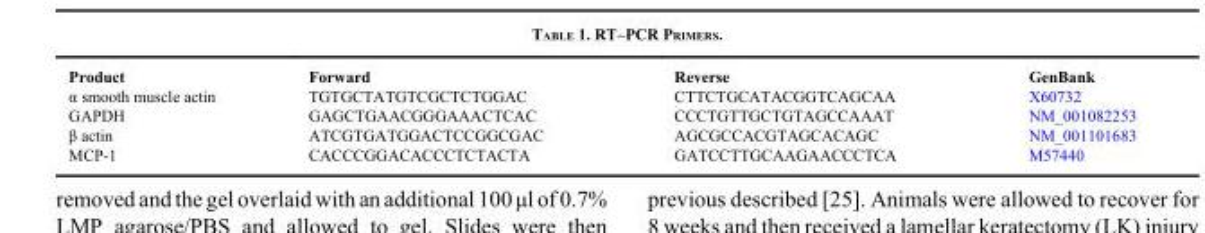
<table><thead><tr><td>Product</td><td>Forward</td><td>Reverse</td><td>GenBank</td></tr></thead><tbody><tr><td>α smooth muscle actin</td><td>TGTGCTATGTCGCTCTGGAC</td><td>CTTCTGCATACGGTCAGCAA</td><td>X60732</td></tr><tr><td>GAPDH</td><td>GAGCTGAACGGGAAACTCAC</td><td>CCCTGTTGCTGTAGCCAAAT</td><td>NM_001082253</td></tr><tr><td>β actin</td><td>ATCGTGATGGACTCCGGCGAC</td><td>AGCGCCACGTAGCACAGC</td><td>NM_001101683</td></tr><tr><td>MCP-1</td><td>CACCCGGACACCCTCTACTA</td><td>GATCCTTGCAAGAACCCTCA</td><td>M57440</td></tr></tbody></table>